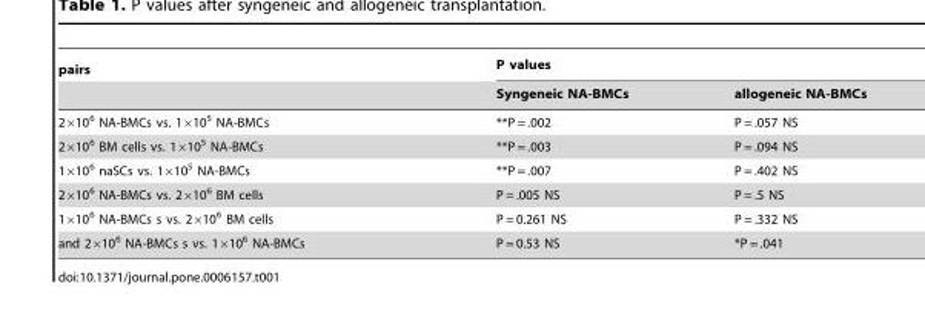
<table><thead><tr><td rowspan="2">pairs</td><td colspan="2">P values</td></tr><tr><td>Syngeneic NA-BMCs</td><td>allogeneic NA-BMCs</td></tr></thead><tbody><tr><td>2×10<sup>6</sup> NA-BMCs vs. 1×10<sup>5</sup> NA-BMCs</td><td>**P = .002</td><td>P = .057 NS</td></tr><tr><td>2×10<sup>6</sup> BM cells vs. 1×10<sup>5</sup> NA-BMCs</td><td>**P = .003</td><td>P = .094 NS</td></tr><tr><td>1×10<sup>6</sup> naSCs vs. 1×10<sup>5</sup> NA-BMCs</td><td>**P = .007</td><td>P = .402 NS</td></tr><tr><td>2×10<sup>6</sup> NA-BMCs vs. 2×10<sup>6</sup> BM cells</td><td>P = .005 NS</td><td>P = .5 NS</td></tr><tr><td>1×10<sup>6</sup> NA-BMCs s vs. 2×10<sup>6</sup> BM cells</td><td>P = 0.261 NS</td><td>P = .332 NS</td></tr><tr><td>and 2×10<sup>6</sup> NA-BMCs s vs. 1×10<sup>6</sup> NA-BMCs</td><td>P = 0.53 NS</td><td>*P = .041</td></tr></tbody></table>